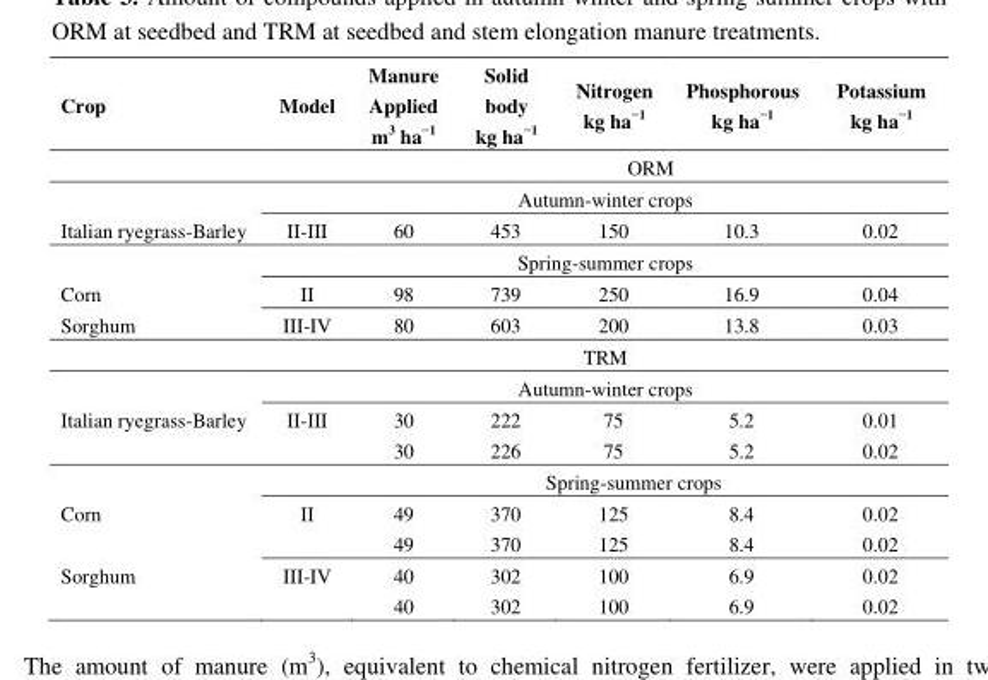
<table><thead><tr><td>Crop</td><td>Model</td><td>Manure Applied m<sup>3</sup> ha<sup>−1</sup></td><td>Solid body kg ha<sup>−1</sup></td><td>Nitrogen kg ha<sup>−1</sup></td><td>Phosphorous kg ha<sup>−1</sup></td><td>Potassium kg ha<sup>−1</sup></td></tr></thead><tbody><tr><td></td><td></td><td></td><td></td><td colspan="2">ORM</td><td></td></tr><tr><td></td><td colspan="6">Autumn-winter crops</td></tr><tr><td rowspan="2">Italian ryegrass-Barley</td><td>II-III</td><td>60</td><td>453</td><td>150</td><td>10.3</td><td>0.02</td></tr><tr><td colspan="6">Spring-summer crops</td></tr><tr><td>Corn</td><td>II</td><td>98</td><td>739</td><td>250</td><td>16.9</td><td>0.04</td></tr><tr><td rowspan="3">Sorghum</td><td>III-IV</td><td>80</td><td>603</td><td>200</td><td>13.8</td><td>0.03</td></tr><tr><td></td><td></td><td></td><td>TRM</td><td></td><td></td></tr><tr><td colspan="6">Autumn-winter crops</td></tr><tr><td rowspan="3">Italian ryegrass-Barley</td><td>II-III</td><td>30</td><td>222</td><td>75</td><td>5.2</td><td>0.01</td></tr><tr><td></td><td>30</td><td>226</td><td>75</td><td>5.2</td><td>0.02</td></tr><tr><td colspan="6">Spring-summer crops</td></tr><tr><td rowspan="2">Corn</td><td>II</td><td>49</td><td>370</td><td>125</td><td>8.4</td><td>0.02</td></tr><tr><td></td><td>49</td><td>370</td><td>125</td><td>8.4</td><td>0.02</td></tr><tr><td rowspan="2">Sorghum</td><td>III-IV</td><td>40</td><td>302</td><td>100</td><td>6.9</td><td>0.02</td></tr><tr><td></td><td>40</td><td>302</td><td>100</td><td>6.9</td><td>0.02</td></tr></tbody></table>